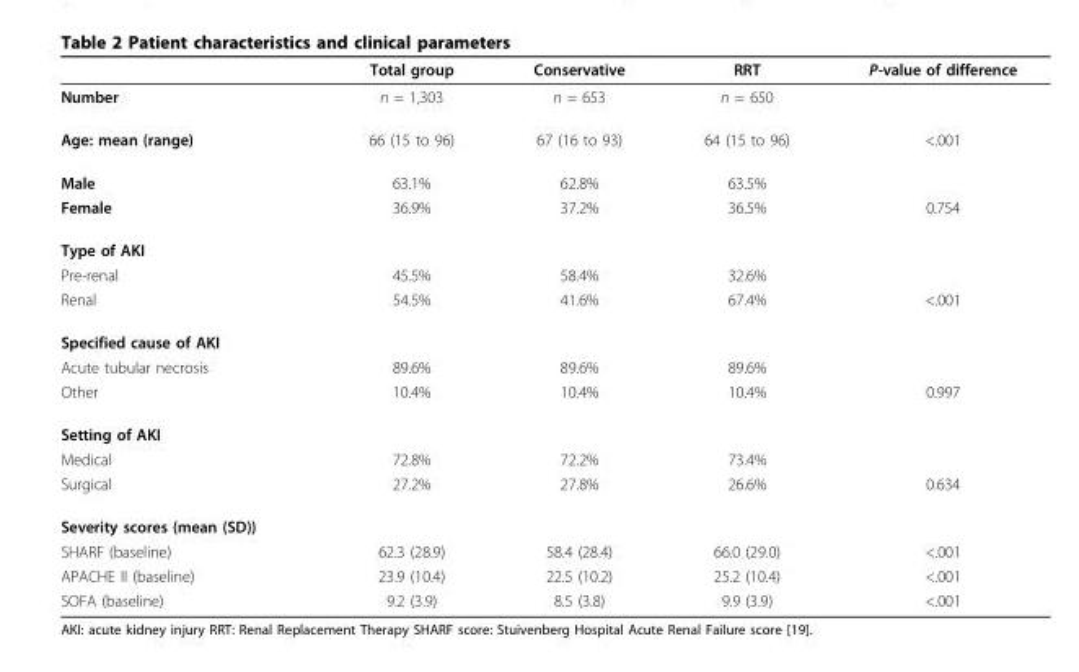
<table><thead><tr><td></td><td>Total group</td><td>Conservative</td><td>RRT</td><td>P-value of difference</td></tr></thead><tbody><tr><td>Number</td><td>n = 1,303</td><td>n = 653</td><td>n = 650</td><td></td></tr><tr><td>Age: mean (range)</td><td>66 (15 to 96)</td><td>67 (16 to 93)</td><td>64 (15 to 96)</td><td>&lt;.001</td></tr><tr><td>Male</td><td>63.1%</td><td>62.8%</td><td>63.5%</td><td></td></tr><tr><td>Female</td><td>36.9%</td><td>37.2%</td><td>36.5%</td><td>0.754</td></tr><tr><td colspan="5">Type of AKI</td></tr><tr><td>Pre-renal</td><td>45.5%</td><td>58.4%</td><td>32.6%</td><td></td></tr><tr><td>Renal</td><td>54.5%</td><td>41.6%</td><td>67.4%</td><td>&lt;.001</td></tr><tr><td colspan="5">Specified cause of AKI</td></tr><tr><td>Acute tubular necrosis</td><td>89.6%</td><td>89.6%</td><td>89.6%</td><td></td></tr><tr><td>Other</td><td>10.4%</td><td>10.4%</td><td>10.4%</td><td>0.997</td></tr><tr><td colspan="5">Setting of AKI</td></tr><tr><td>Medical</td><td>72.8%</td><td>72.2%</td><td>73.4%</td><td></td></tr><tr><td>Surgical</td><td>27.2%</td><td>27.8%</td><td>26.6%</td><td>0.634</td></tr><tr><td colspan="5">Severity scores (mean (SD))</td></tr><tr><td>SHARF (baseline)</td><td>62.3 (28.9)</td><td>58.4 (28.4)</td><td>66.0 (29.0)</td><td>&lt;.001</td></tr><tr><td>APACHE II (baseline)</td><td>23.9 (10.4)</td><td>22.5 (10.2)</td><td>25.2 (10.4)</td><td>&lt;.001</td></tr><tr><td>SOFA (baseline)</td><td>9.2 (3.9)</td><td>8.5 (3.8)</td><td>9.9 (3.9)</td><td>&lt;.001</td></tr></tbody></table>